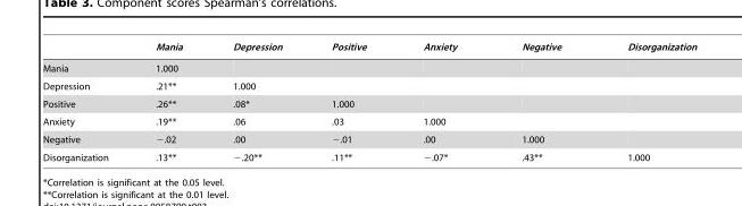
<table><thead><tr><td></td><td>Mania</td><td>Depression</td><td>Positive</td><td>Anxiety</td><td>Negative</td><td>Disorganization</td></tr></thead><tbody><tr><td>Mania</td><td>1.000</td><td></td><td></td><td></td><td></td><td></td></tr><tr><td>Depression</td><td>.21**</td><td>1.000</td><td></td><td></td><td></td><td></td></tr><tr><td>Positive</td><td>.26**</td><td>.08*</td><td>1.000</td><td></td><td></td><td></td></tr><tr><td>Anxiety</td><td>.19**</td><td>.06</td><td>.03</td><td>1.000</td><td></td><td></td></tr><tr><td>Negative</td><td>−.02</td><td>.00</td><td>−.01</td><td>.00</td><td>1.000</td><td></td></tr><tr><td>Disorganization</td><td>.13**</td><td>−.20**</td><td>.11**</td><td>−.07*</td><td>.43**</td><td>1.000</td></tr></tbody></table>